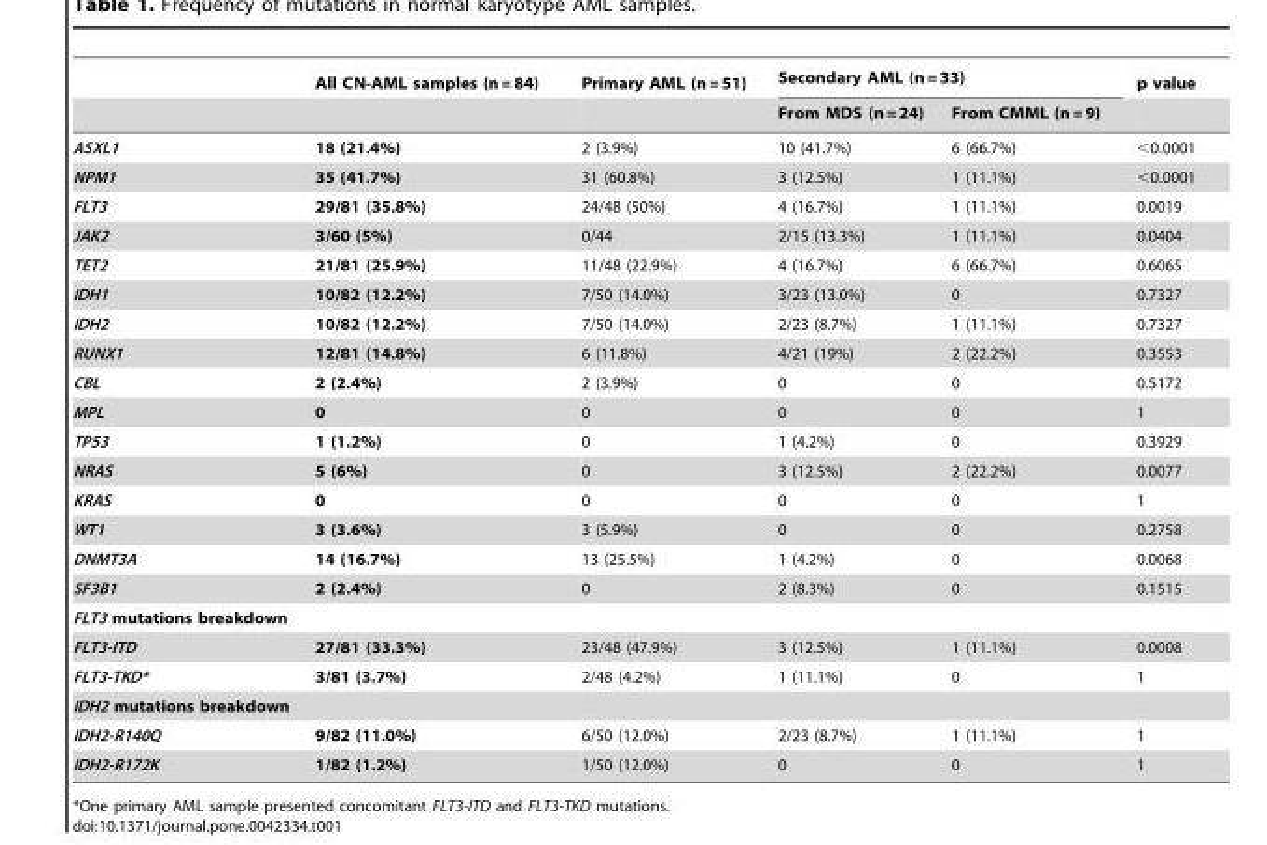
<table><thead><tr><td rowspan="2"></td><td rowspan="2">All CN-AML samples (n = 84)</td><td rowspan="2">Primary AML (n = 51)</td><td colspan="2">Secondary AML (n = 33)</td><td rowspan="2">p value</td></tr><tr><td>From MDS (n = 24)</td><td>From CMML (n = 9)</td></tr></thead><tbody><tr><td>ASXL1</td><td>18 (21.4%)</td><td>2 (3.9%)</td><td>10 (41.7%)</td><td>6 (66.7%)</td><td>&lt;0.0001</td></tr><tr><td>NPM1</td><td>35 (41.7%)</td><td>31 (60.8%)</td><td>3 (12.5%)</td><td>1 (11.1%)</td><td>&lt;0.0001</td></tr><tr><td>FLT3</td><td>29/81 (35.8%)</td><td>24/48 (50%)</td><td>4 (16.7%)</td><td>1 (11.1%)</td><td>0.0019</td></tr><tr><td>JAK2</td><td>3/60 (5%)</td><td>0/44</td><td>2/15 (13.3%)</td><td>1 (11.1%)</td><td>0.0404</td></tr><tr><td>TET2</td><td>21/81 (25.9%)</td><td>11/48 (22.9%)</td><td>4 (16.7%)</td><td>6 (66.7%)</td><td>0.6065</td></tr><tr><td>IDH1</td><td>10/82 (12.2%)</td><td>7/50 (14.0%)</td><td>3/23 (13.0%)</td><td>0</td><td>0.7327</td></tr><tr><td>IDH2</td><td>10/82 (12.2%)</td><td>7/50 (14.0%)</td><td>2/23 (8.7%)</td><td>1 (11.1%)</td><td>0.7327</td></tr><tr><td>RUNX1</td><td>12/81 (14.8%)</td><td>6 (11.8%)</td><td>4/21 (19%)</td><td>2 (22.2%)</td><td>0.3553</td></tr><tr><td>CBL</td><td>2 (2.4%)</td><td>2 (3.9%)</td><td>0</td><td>0</td><td>0.5172</td></tr><tr><td>MPL</td><td>0</td><td>0</td><td>0</td><td>0</td><td>1</td></tr><tr><td>TP53</td><td>1 (1.2%)</td><td>0</td><td>1 (4.2%)</td><td>0</td><td>0.3929</td></tr><tr><td>NRAS</td><td>5 (6%)</td><td>0</td><td>3 (12.5%)</td><td>2 (22.2%)</td><td>0.0077</td></tr><tr><td>KRAS</td><td>0</td><td>0</td><td>0</td><td>0</td><td>1</td></tr><tr><td>WT1</td><td>3 (3.6%)</td><td>3 (5.9%)</td><td>0</td><td>0</td><td>0.2758</td></tr><tr><td>DNMT3A</td><td>14 (16.7%)</td><td>13 (25.5%)</td><td>1 (4.2%)</td><td>0</td><td>0.0068</td></tr><tr><td>SF3B1</td><td>2 (2.4%)</td><td>0</td><td>2 (8.3%)</td><td>0</td><td>0.1515</td></tr><tr><td colspan="6">FLT3 mutations breakdown</td></tr><tr><td>FLT3-ITD</td><td>27/81 (33.3%)</td><td>23/48 (47.9%)</td><td>3 (12.5%)</td><td>1 (11.1%)</td><td>0.0008</td></tr><tr><td>FLT3-TKD*</td><td>3/81 (3.7%)</td><td>2/48 (4.2%)</td><td>1 (11.1%)</td><td>0</td><td>1</td></tr><tr><td colspan="6">IDH2 mutations breakdown</td></tr><tr><td>IDH2-R140Q</td><td>9/82 (11.0%)</td><td>6/50 (12.0%)</td><td>2/23 (8.7%)</td><td>1 (11.1%)</td><td>1</td></tr><tr><td>IDH2-R172K</td><td>1/82 (1.2%)</td><td>1/50 (12.0%)</td><td>0</td><td>0</td><td>1</td></tr></tbody></table>